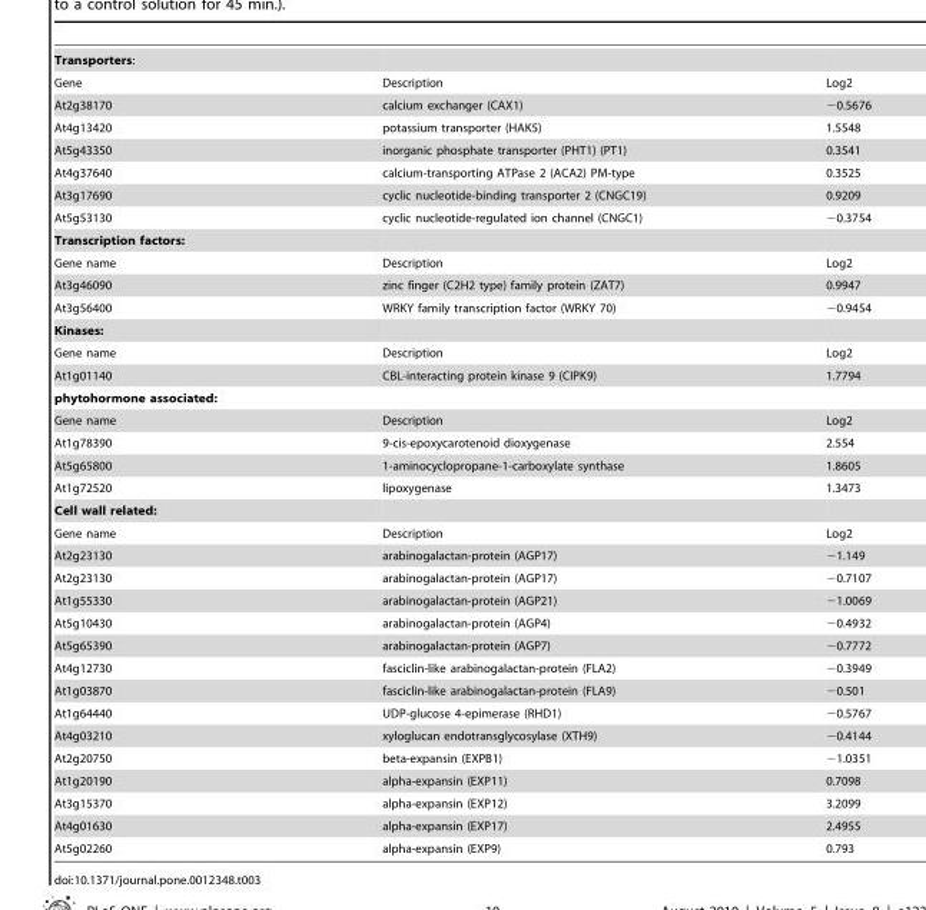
<table><tbody><tr><td colspan="3">Transporters:</td></tr><tr><td>Gene</td><td>Description</td><td>Log2</td></tr><tr><td>At2g38170</td><td>calcium exchanger (CAX1)</td><td>−0.5676</td></tr><tr><td>At4g13420</td><td>potassium transporter (HAK5)</td><td>1.5548</td></tr><tr><td>At5g43350</td><td>inorganic phosphate transporter (PHT1) (PT1)</td><td>0.3541</td></tr><tr><td>At4g37640</td><td>calcium-transporting ATPase 2 (ACA2) PM-type</td><td>0.3525</td></tr><tr><td>At3g17690</td><td>cyclic nucleotide-binding transporter 2 (CNGC19)</td><td>0.9209</td></tr><tr><td>At5g53130</td><td>cyclic nucleotide-regulated ion channel (CNGC1)</td><td>−0.3754</td></tr><tr><td colspan="3">Transcription factors:</td></tr><tr><td>Gene name</td><td>Description</td><td>Log2</td></tr><tr><td>At3g46090</td><td>zinc finger (C2H2 type) family protein (ZAT7)</td><td>0.9947</td></tr><tr><td>At3g56400</td><td>WRKY family transcription factor (WRKY 70)</td><td>−0.9454</td></tr><tr><td colspan="3">Kinases:</td></tr><tr><td>Gene name</td><td>Description</td><td>Log2</td></tr><tr><td>At1g01140</td><td>CBL-interacting protein kinase 9 (CIPK9)</td><td>1.7794</td></tr><tr><td colspan="3">phytohormone associated:</td></tr><tr><td>Gene name</td><td>Description</td><td>Log2</td></tr><tr><td>At1g78390</td><td>9-cis-epoxycarotenoid dioxygenase</td><td>2.554</td></tr><tr><td>At5g65800</td><td>1-aminocyclopropane-1-carboxylate synthase</td><td>1.8605</td></tr><tr><td>At1g72520</td><td>lipoxygenase</td><td>1.3473</td></tr><tr><td colspan="3">Cell wall related:</td></tr><tr><td>Gene name</td><td>Description</td><td>Log2</td></tr><tr><td>At2g23130</td><td>arabinogalactan-protein (AGP17)</td><td>−1.149</td></tr><tr><td>At2g23130</td><td>arabinogalactan-protein (AGP17)</td><td>−0.7107</td></tr><tr><td>At1g55330</td><td>arabinogalactan-protein (AGP21)</td><td>−1.0069</td></tr><tr><td>At5g10430</td><td>arabinogalactan-protein (AGP4)</td><td>−0.4932</td></tr><tr><td>At5g65390</td><td>arabinogalactan-protein (AGP7)</td><td>−0.7772</td></tr><tr><td>At4g12730</td><td>fasciclin-like arabinogalactan-protein (FLA2)</td><td>−0.3949</td></tr><tr><td>At1g03870</td><td>fasciclin-like arabinogalactan-protein (FLA9)</td><td>−0.501</td></tr><tr><td>At1g64440</td><td>UDP-glucose 4-epimerase (RHD1)</td><td>−0.5767</td></tr><tr><td>At4g03210</td><td>xyloglucan endotransglycosylase (XTH9)</td><td>−0.4144</td></tr><tr><td>At2g20750</td><td>beta-expansin (EXPB1)</td><td>−1.0351</td></tr><tr><td>At1g20190</td><td>alpha-expansin (EXP11)</td><td>0.7098</td></tr><tr><td>At3g15370</td><td>alpha-expansin (EXP12)</td><td>3.2099</td></tr><tr><td>At4g01630</td><td>alpha-expansin (EXP17)</td><td>2.4955</td></tr><tr><td>At5g02260</td><td>alpha-expansin (EXP9)</td><td>0.793</td></tr></tbody></table>